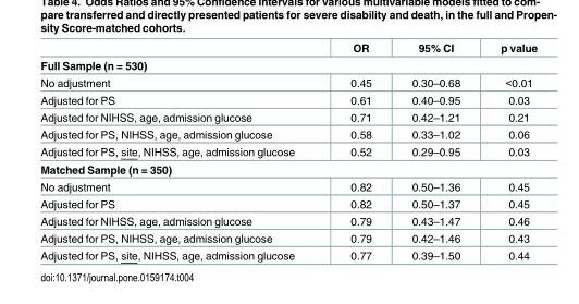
<table><thead><tr><td></td><td>OR</td><td>95% CI</td><td>p value</td></tr></thead><tbody><tr><td colspan="4">Full Sample (n = 530)</td></tr><tr><td>No adjustment</td><td>0.45</td><td>0.30–0.68</td><td>&lt;0.01</td></tr><tr><td>Adjusted for PS</td><td>0.61</td><td>0.40–0.95</td><td>0.03</td></tr><tr><td>Adjusted for NIHSS, age, admission glucose</td><td>0.71</td><td>0.42–1.21</td><td>0.21</td></tr><tr><td>Adjusted for PS, NIHSS, age, admission glucose</td><td>0.58</td><td>0.33–1.02</td><td>0.06</td></tr><tr><td>Adjusted for PS, site, NIHSS, age, admission glucose</td><td>0.52</td><td>0.29–0.95</td><td>0.03</td></tr><tr><td colspan="4">Matched Sample (n = 350)</td></tr><tr><td>No adjustment</td><td>0.82</td><td>0.50–1.36</td><td>0.45</td></tr><tr><td>Adjusted for PS</td><td>0.82</td><td>0.50–1.37</td><td>0.45</td></tr><tr><td>Adjusted for NIHSS, age, admission glucose</td><td>0.79</td><td>0.43–1.47</td><td>0.46</td></tr><tr><td>Adjusted for PS, NIHSS, age, admission glucose</td><td>0.79</td><td>0.42–1.46</td><td>0.43</td></tr><tr><td>Adjusted for PS, site, NIHSS, age, admission glucose</td><td>0.77</td><td>0.39–1.50</td><td>0.44</td></tr></tbody></table>